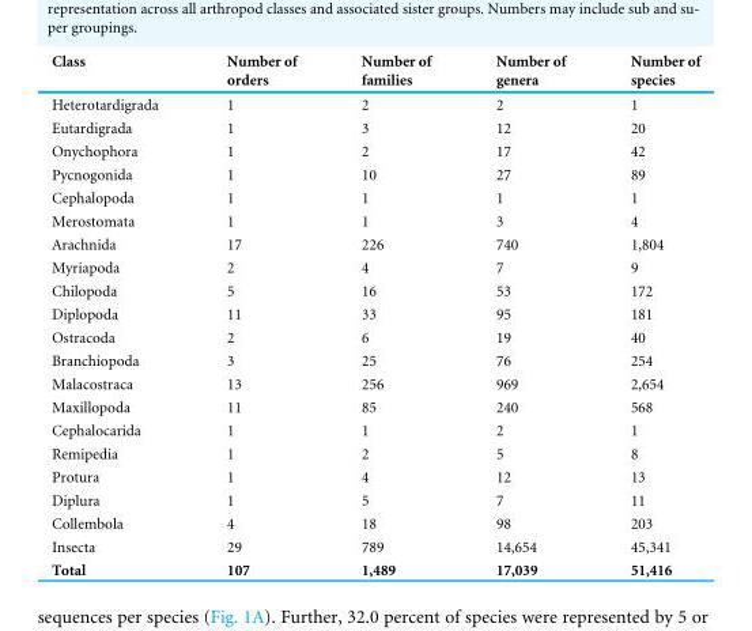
<table><thead><tr><td>Class</td><td>Number of orders</td><td>Number of families</td><td>Number of genera</td><td>Number of species</td></tr></thead><tbody><tr><td>Heterotardigrada</td><td>1</td><td>2</td><td>2</td><td>1</td></tr><tr><td>Eutardigrada</td><td>1</td><td>3</td><td>12</td><td>20</td></tr><tr><td>Onychophora</td><td>1</td><td>2</td><td>17</td><td>42</td></tr><tr><td>Pycnogonida</td><td>1</td><td>10</td><td>27</td><td>89</td></tr><tr><td>Cephalopoda</td><td>1</td><td>1</td><td>1</td><td>1</td></tr><tr><td>Merostomata</td><td>1</td><td>1</td><td>3</td><td>4</td></tr><tr><td>Arachnida</td><td>17</td><td>226</td><td>740</td><td>1,804</td></tr><tr><td>Myriapoda</td><td>2</td><td>4</td><td>7</td><td>9</td></tr><tr><td>Chilopoda</td><td>5</td><td>16</td><td>53</td><td>172</td></tr><tr><td>Diplopoda</td><td>11</td><td>33</td><td>95</td><td>181</td></tr><tr><td>Ostracoda</td><td>2</td><td>6</td><td>19</td><td>40</td></tr><tr><td>Branchiopoda</td><td>3</td><td>25</td><td>76</td><td>254</td></tr><tr><td>Malacostraca</td><td>13</td><td>256</td><td>969</td><td>2,654</td></tr><tr><td>Maxillopoda</td><td>11</td><td>85</td><td>240</td><td>568</td></tr><tr><td>Cephalocarida</td><td>1</td><td>1</td><td>2</td><td>1</td></tr><tr><td>Remipedia</td><td>1</td><td>2</td><td>5</td><td>8</td></tr><tr><td>Protura</td><td>1</td><td>4</td><td>12</td><td>13</td></tr><tr><td>Diplura</td><td>1</td><td>5</td><td>7</td><td>11</td></tr><tr><td>Collembola</td><td>4</td><td>18</td><td>98</td><td>203</td></tr><tr><td>Insecta</td><td>29</td><td>789</td><td>14,654</td><td>45,341</td></tr><tr><td>Total</td><td>107</td><td>1,489</td><td>17,039</td><td>51,416</td></tr></tbody></table>